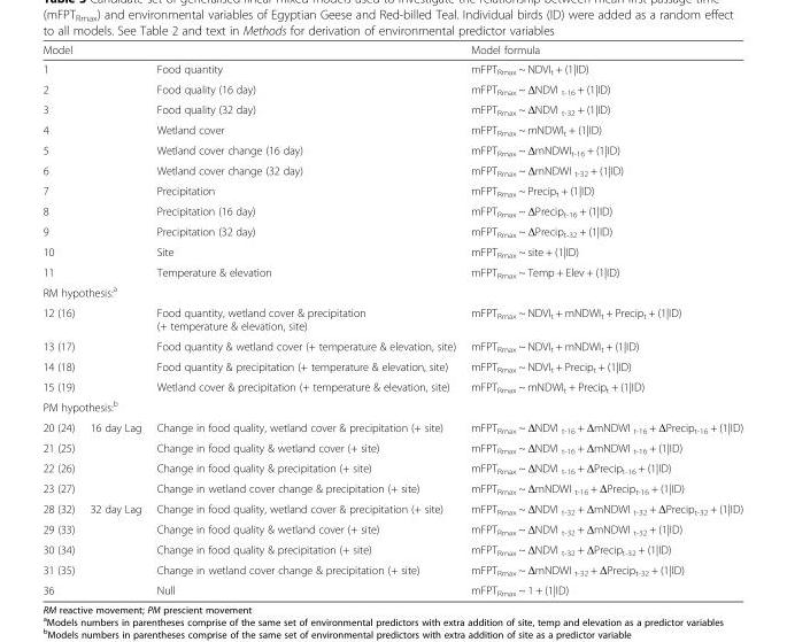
<table><thead><tr><td colspan="3">Model</td><td>Model formula</td></tr></thead><tbody><tr><td colspan="2">1</td><td>Food quantity</td><td>mFPT<sub>Rmax</sub> ~ NDVI<sub>t</sub> + (1|ID)</td></tr><tr><td colspan="2">2</td><td>Food quality (16 day)</td><td>mFPT<sub>Rmax</sub> ~ ΔNDVI <sub>t-16</sub> + (1|ID)</td></tr><tr><td colspan="2">3</td><td>Food quality (32 day)</td><td>mFPT<sub>Rmax</sub> ~ ΔNDVI <sub>t-32</sub> + (1|ID)</td></tr><tr><td colspan="2">4</td><td>Wetland cover</td><td>mFPT<sub>Rmax</sub> ~ mNDWI<sub>t</sub> + (1|ID)</td></tr><tr><td colspan="2">5</td><td>Wetland cover change (16 day)</td><td>mFPT<sub>Rmax</sub> ~ ΔmNDWI<sub>t-16</sub> + (1|ID)</td></tr><tr><td colspan="2">6</td><td>Wetland cover change (32 day)</td><td>mFPT<sub>Rmax</sub> ~ ΔmNDWI <sub>t-32</sub> + (1|ID)</td></tr><tr><td colspan="2">7</td><td>Precipitation</td><td>mFPT<sub>Rmax</sub> ~ Precip<sub>t</sub> + (1|ID)</td></tr><tr><td colspan="2">8</td><td>Precipitation (16 day)</td><td>mFPT<sub>Rmax</sub> ~ ΔPrecip<sub>t-16</sub> + (1|ID)</td></tr><tr><td colspan="2">9</td><td>Precipitation (32 day)</td><td>mFPT<sub>Rmax</sub> ~ ΔPrecip<sub>t-32</sub> + (1|ID)</td></tr><tr><td colspan="2">10</td><td>Site</td><td>mFPT<sub>Rmax</sub> ~ site + (1|ID)</td></tr><tr><td colspan="2">11</td><td>Temperature &amp; elevation</td><td>mFPT<sub>Rmax</sub> ~ Temp + Elev + (1|ID)</td></tr><tr><td colspan="4">RM hypothesis:<sup>a</sup></td></tr><tr><td colspan="2">12 (16)</td><td>Food quantity, wetland cover &amp; precipitation (+ temperature &amp; elevation, site)</td><td>mFPT<sub>Rmax</sub> ~ NDVI<sub>t</sub> + mNDWI<sub>t</sub> + Precip<sub>t</sub> + (1|ID)</td></tr><tr><td colspan="2">13 (17)</td><td>Food quantity &amp; wetland cover (+ temperature &amp; elevation, site)</td><td>mFPT<sub>Rmax</sub> ~ NDVI<sub>t</sub> + mNDWI<sub>t</sub> + (1|ID)</td></tr><tr><td colspan="2">14 (18)</td><td>Food quantity &amp; precipitation (+ temperature &amp; elevation, site)</td><td>mFPT<sub>Rmax</sub> ~ NDVI<sub>t</sub> + Precip<sub>t</sub> + (1|ID)</td></tr><tr><td colspan="2">15 (19)</td><td>Wetland cover &amp; precipitation (+ temperature &amp; elevation, site)</td><td>mFPT<sub>Rmax</sub> ~ mNDWI<sub>t</sub> + Precip<sub>t</sub> + (1|ID)</td></tr><tr><td colspan="4">PM hypothesis:<sup>b</sup></td></tr><tr><td>20 (24)</td><td>16 day Lag</td><td>Change in food quality, wetland cover &amp; precipitation (+ site)</td><td>mFPT<sub>Rmax</sub> ~ ΔNDVI <sub>t-16</sub> + ΔmNDWI <sub>t-16</sub> + ΔPrecip<sub>t-16</sub> + (1|ID)</td></tr><tr><td colspan="2">21 (25)</td><td>Change in food quality &amp; wetland cover (+ site)</td><td>mFPT<sub>Rmax</sub> ~ ΔNDVI <sub>t-16</sub> + ΔmNDWI <sub>t-16</sub> + (1|ID)</td></tr><tr><td colspan="2">22 (26)</td><td>Change in food quality &amp; precipitation (+ site)</td><td>mFPT<sub>Rmax</sub> ~ ΔNDVI <sub>t-16</sub> + ΔPrecip<sub>t-16</sub> + (1|ID)</td></tr><tr><td colspan="2">23 (27)</td><td>Change in wetland cover change &amp; precipitation (+ site)</td><td>mFPT<sub>Rmax</sub> ~ ΔmNDWI <sub>t-16</sub> + ΔPrecip<sub>t-16</sub> + (1|ID)</td></tr><tr><td>28 (32)</td><td>32 day Lag</td><td>Change in food quality, wetland cover &amp; precipitation (+ site)</td><td>mFPT<sub>Rmax</sub> ~ ΔNDVI <sub>t-32</sub> + ΔmNDWI <sub>t-32</sub> + ΔPrecip<sub>t-32</sub> + (1|ID)</td></tr><tr><td colspan="2">29 (33)</td><td>Change in food quality &amp; wetland cover (+ site)</td><td>mFPT<sub>Rmax</sub> ~ ΔNDVI <sub>t-32</sub> + ΔmNDWI <sub>t-32</sub> + (1|ID)</td></tr><tr><td colspan="2">30 (34)</td><td>Change in food quality &amp; precipitation (+ site)</td><td>mFPT<sub>Rmax</sub> ~ ΔNDVI <sub>t-32</sub> + ΔPrecip<sub>t-32</sub> + (1|ID)</td></tr><tr><td colspan="2">31 (35)</td><td>Change in wetland cover change &amp; precipitation (+ site)</td><td>mFPT<sub>Rmax</sub> ~ ΔmNDWI <sub>t-32</sub> + ΔPrecip<sub>t-32</sub> + (1|ID)</td></tr><tr><td colspan="2">36</td><td>Null</td><td>mFPT<sub>Rmax</sub> ~ 1 + (1|ID)</td></tr></tbody></table>